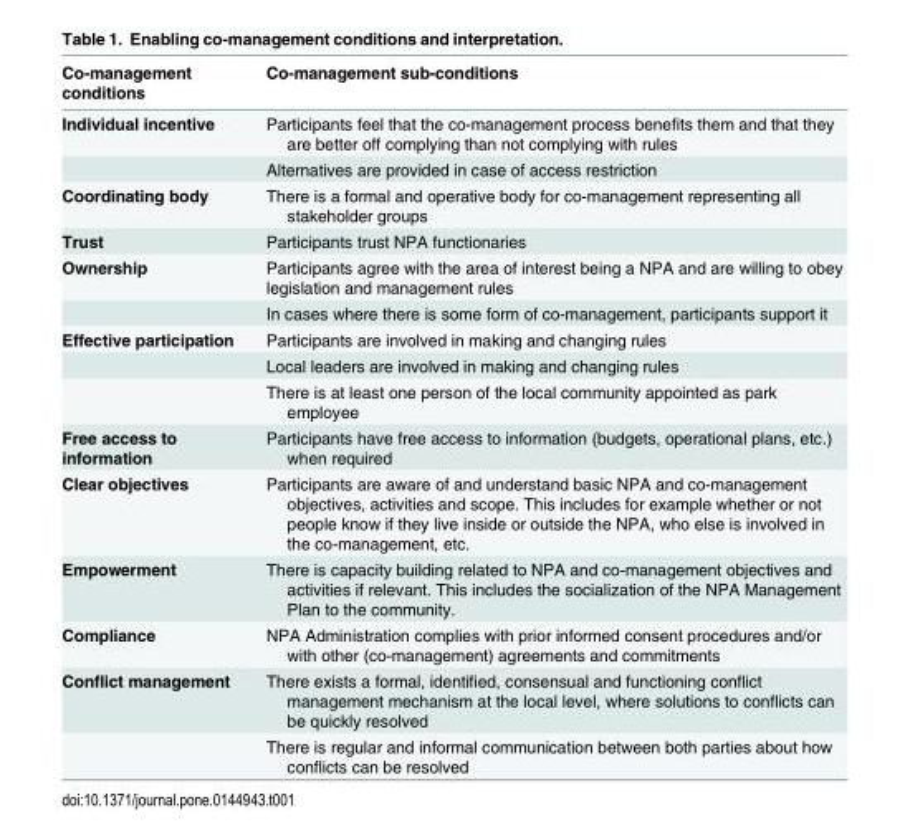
<table><thead><tr><td>Co-management conditions</td><td>Co-management sub-conditions</td></tr></thead><tbody><tr><td rowspan="2">Individual incentive</td><td>Participants feel that the co-management process benefits them and that they are better off complying than not complying with rules</td></tr><tr><td>Alternatives are provided in case of access restriction</td></tr><tr><td>Coordinating body</td><td>There is a formal and operative body for co-management representing all stakeholder groups</td></tr><tr><td>Trust</td><td>Participants trust NPA functionaries</td></tr><tr><td rowspan="2">Ownership</td><td>Participants agree with the area of interest being a NPA and are willing to obey legislation and management rules</td></tr><tr><td>In cases where there is some form of co-management, participants support it</td></tr><tr><td rowspan="3">Effective participation</td><td>Participants are involved in making and changing rules</td></tr><tr><td>Local leaders are involved in making and changing rules</td></tr><tr><td>There is at least one person of the local community appointed as park employee</td></tr><tr><td>Free access to information</td><td>Participants have free access to information (budgets, operational plans, etc.) when required</td></tr><tr><td>Clear objectives</td><td>Participants are aware of and understand basic NPA and co-management objectives, activities and scope. This includes for example whether or not people know if they live inside or outside the NPA, who else is involved in the co-management, etc.</td></tr><tr><td>Empowerment</td><td>There is capacity building related to NPA and co-management objectives and activities if relevant. This includes the socialization of the NPA Management Plan to the community.</td></tr><tr><td>Compliance</td><td>NPA Administration complies with prior informed consent procedures and/or with other (co-management) agreements and commitments</td></tr><tr><td rowspan="2">Conflict management</td><td>There exists a formal, identified, consensual and functioning conflict management mechanism at the local level, where solutions to conflicts can be quickly resolved</td></tr><tr><td>There is regular and informal communication between both parties about how conflicts can be resolved</td></tr></tbody></table>